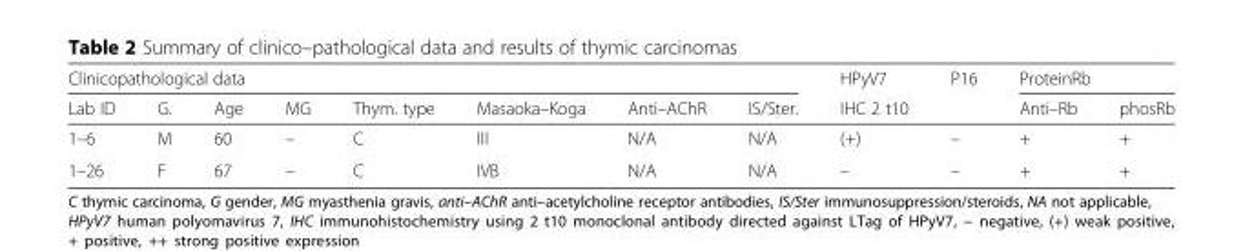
<table><thead><tr><td colspan="8">Clinicopathological data</td><td rowspan="2">HPyV7 IHC 2 t10</td><td rowspan="2">P16</td><td colspan="2">ProteinRb</td></tr><tr><td>Lab ID</td><td>G.</td><td>Age</td><td>MG</td><td>Thym. type</td><td>Masaoka–Koga</td><td>Anti–AChR</td><td>IS/Ster.</td><td>Anti–Rb</td><td>phosRb</td></tr></thead><tbody><tr><td>1–6</td><td>M</td><td>60</td><td>–</td><td>C</td><td>III</td><td>N/A</td><td>N/A</td><td>(+)</td><td>–</td><td>+</td><td>+</td></tr><tr><td>1–26</td><td>F</td><td>67</td><td>–</td><td>C</td><td>IVB</td><td>N/A</td><td>N/A</td><td>–</td><td>–</td><td>+</td><td>+</td></tr></tbody></table>